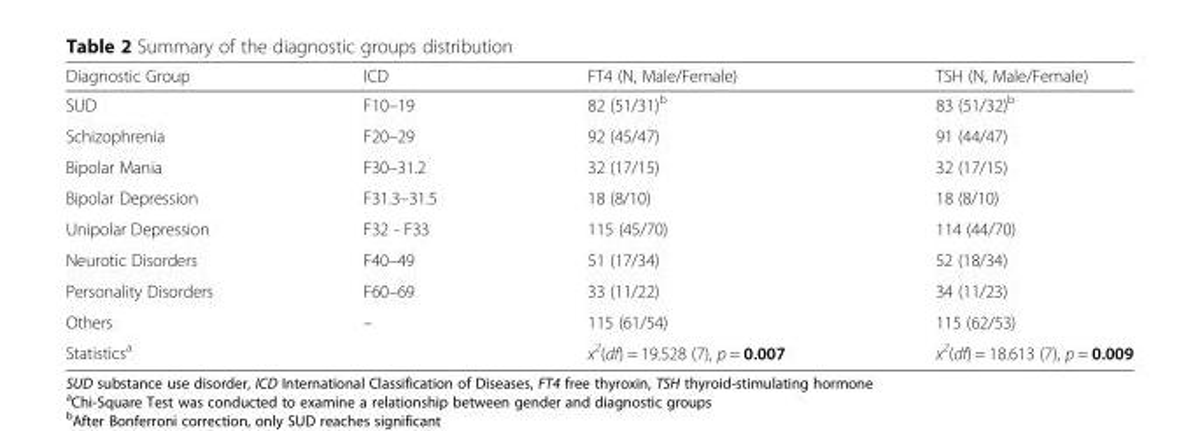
<table><thead><tr><td>Diagnostic Group</td><td>ICD</td><td>FT4 (N, Male/Female)</td><td>TSH (N, Male/Female)</td></tr></thead><tbody><tr><td>SUD</td><td>F10–19</td><td>82 (51/31)<sup>b</sup></td><td>83 (51/32)<sup>b</sup></td></tr><tr><td>Schizophrenia</td><td>F20–29</td><td>92 (45/47)</td><td>91 (44/47)</td></tr><tr><td>Bipolar Mania</td><td>F30–31.2</td><td>32 (17/15)</td><td>32 (17/15)</td></tr><tr><td>Bipolar Depression</td><td>F31.3–31.5</td><td>18 (8/10)</td><td>18 (8/10)</td></tr><tr><td>Unipolar Depression</td><td>F32 - F33</td><td>115 (45/70)</td><td>114 (44/70)</td></tr><tr><td>Neurotic Disorders</td><td>F40–49</td><td>51 (17/34)</td><td>52 (18/34)</td></tr><tr><td>Personality Disorders</td><td>F60–69</td><td>33 (11/22)</td><td>34 (11/23)</td></tr><tr><td>Others</td><td>–</td><td>115 (61/54)</td><td>115 (62/53)</td></tr><tr><td>Statistics<sup>a</sup></td><td></td><td>x<sup>2</sup>(df) = 19.528 (7), p = 0.007</td><td>x<sup>2</sup>(df) = 18.613 (7), p = 0.009</td></tr></tbody></table>